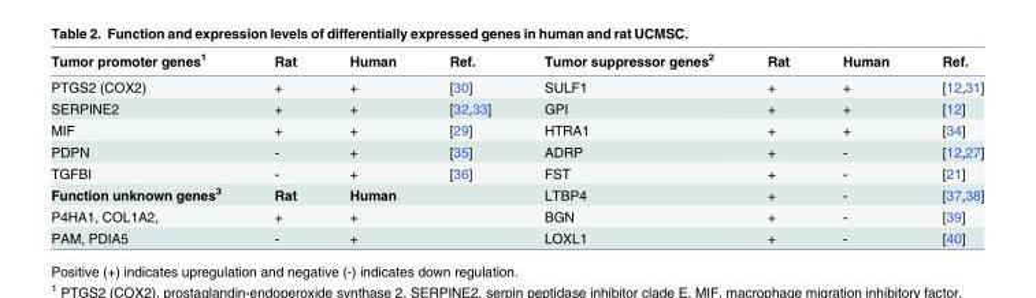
<table><thead><tr><td>Tumor promoter genes<sup>1</sup></td><td>Rat</td><td>Human</td><td>Ref.</td><td>Tumor suppressor genes<sup>2</sup></td><td>Rat</td><td>Human</td><td>Ref.</td></tr></thead><tbody><tr><td>PTGS2 (COX2)</td><td>+</td><td>+</td><td>[30]</td><td>SULF1</td><td>+</td><td>+</td><td>[12,31]</td></tr><tr><td>SERPINE2</td><td>+</td><td>+</td><td>[32,33]</td><td>GPI</td><td>+</td><td>+</td><td>[12]</td></tr><tr><td>MIF</td><td>+</td><td>+</td><td>[29]</td><td>HTRA1</td><td>+</td><td>+</td><td>[34]</td></tr><tr><td>PDPN</td><td>-</td><td>+</td><td>[35]</td><td>ADRP</td><td>+</td><td>-</td><td>[12,27]</td></tr><tr><td>TGFBI</td><td>-</td><td>+</td><td>[36]</td><td>FST</td><td>+</td><td>-</td><td>[21]</td></tr><tr><td>Function unknown genes<sup>3</sup></td><td>Rat</td><td>Human</td><td></td><td>LTBP4</td><td>+</td><td>-</td><td>[37,38]</td></tr><tr><td>P4HA1, COL1A2,</td><td>+</td><td>+</td><td></td><td>BGN</td><td>+</td><td>-</td><td>[39]</td></tr><tr><td>PAM, PDIA5</td><td>-</td><td>+</td><td></td><td>LOXL1</td><td>+</td><td>-</td><td>[40]</td></tr></tbody></table>